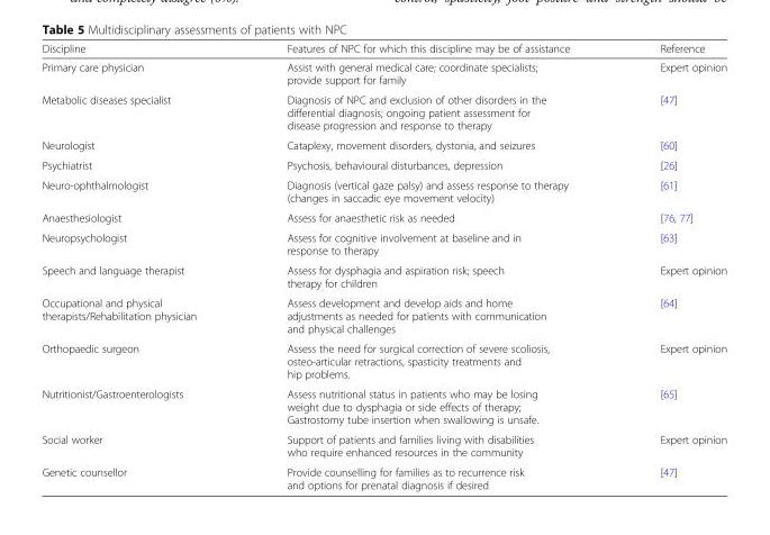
<table><thead><tr><td>Discipline</td><td>Features of NPC for which this discipline may be of assistance</td><td>Reference</td></tr></thead><tbody><tr><td>Primary care physician</td><td>Assist with general medical care; coordinate specialists; provide support for family</td><td>Expert opinion</td></tr><tr><td>Metabolic diseases specialist</td><td>Diagnosis of NPC and exclusion of other disorders in the differential diagnosis; ongoing patient assessment for disease progression and response to therapy</td><td>[47]</td></tr><tr><td>Neurologist</td><td>Cataplexy, movement disorders, dystonia, and seizures</td><td>[60]</td></tr><tr><td>Psychiatrist</td><td>Psychosis, behavioural disturbances, depression</td><td>[26]</td></tr><tr><td>Neuro-ophthalmologist</td><td>Diagnosis (vertical gaze palsy) and assess response to therapy (changes in saccadic eye movement velocity)</td><td>[61]</td></tr><tr><td>Anaesthesiologist</td><td>Assess for anaesthetic risk as needed</td><td>[76, 77]</td></tr><tr><td>Neuropsychologist</td><td>Assess for cognitive involvement at baseline and in response to therapy</td><td>[63]</td></tr><tr><td>Speech and language therapist</td><td>Assess for dysphagia and aspiration risk; speech therapy for children</td><td>Expert opinion</td></tr><tr><td>Occupational and physical therapists/Rehabilitation physician</td><td>Assess development and develop aids and home adjustments as needed for patients with communication and physical challenges</td><td>[64]</td></tr><tr><td>Orthopaedic surgeon</td><td>Assess the need for surgical correction of severe scoliosis, osteo-articular retractions, spasticity treatments and hip problems.</td><td>Expert opinion</td></tr><tr><td>Nutritionist/Gastroenterologists</td><td>Assess nutritional status in patients who may be losing weight due to dysphagia or side effects of therapy; Gastrostomy tube insertion when swallowing is unsafe.</td><td>[65]</td></tr><tr><td>Social worker</td><td>Support of patients and families living with disabilities who require enhanced resources in the community</td><td>Expert opinion</td></tr><tr><td>Genetic counsellor</td><td>Provide counselling for families as to recurrence risk and options for prenatal diagnosis if desired</td><td>[47]</td></tr></tbody></table>